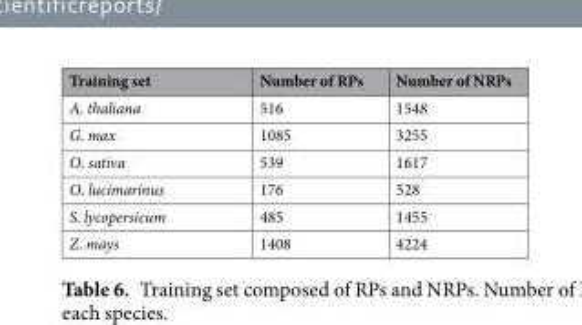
<table><thead><tr><td>Training set</td><td>Number of RPs</td><td>Number of NRPs</td></tr></thead><tbody><tr><td>A. thaliana</td><td>516</td><td>1548</td></tr><tr><td>G. max</td><td>1085</td><td>3255</td></tr><tr><td>O. sativa</td><td>539</td><td>1617</td></tr><tr><td>O. lucimarinus</td><td>176</td><td>528</td></tr><tr><td>S. lycopersicum</td><td>485</td><td>1455</td></tr><tr><td>Z. mays</td><td>1408</td><td>4224</td></tr></tbody></table>